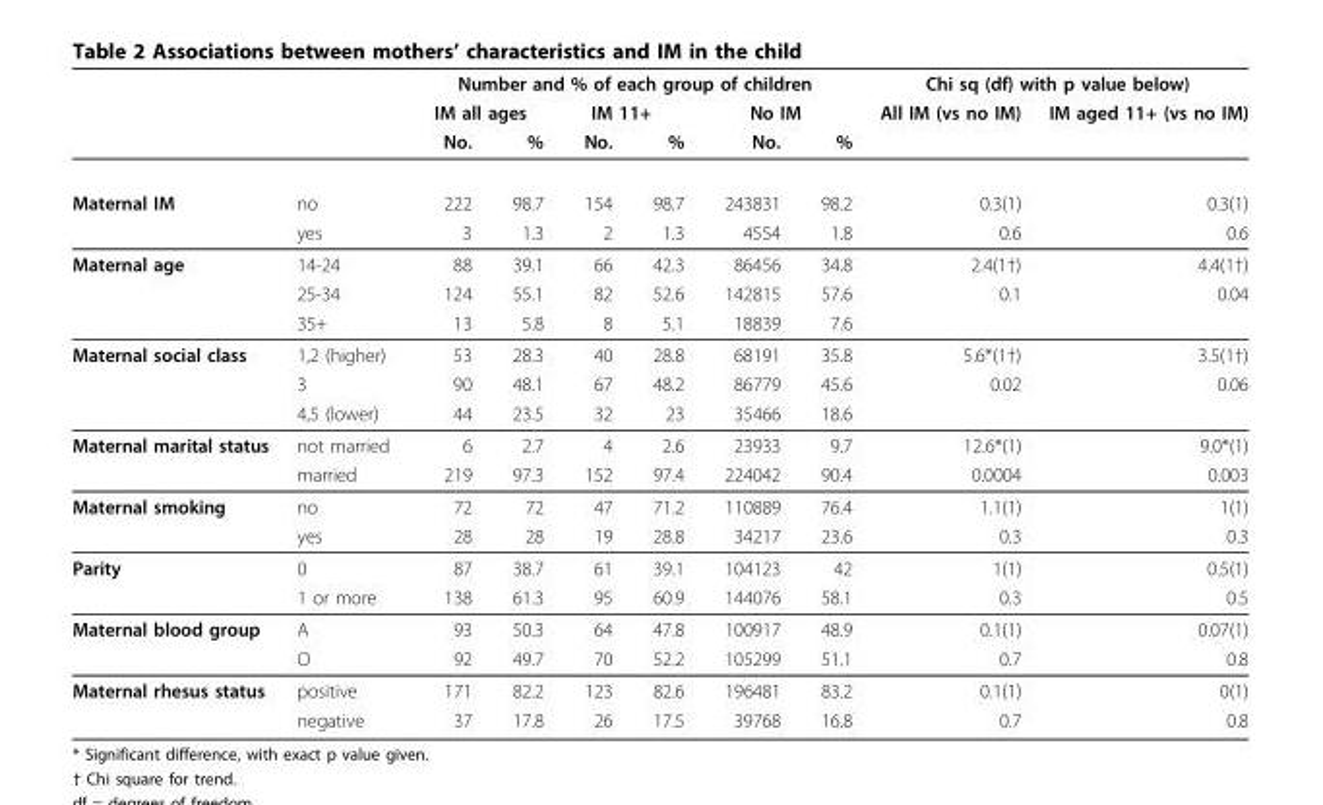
<table><thead><tr><td rowspan="3"></td><td rowspan="3"></td><td colspan="6">Number and % of each group of children</td><td colspan="2">Chi sq (df) with p value below)</td></tr><tr><td colspan="2">IM all ages</td><td colspan="2">IM 11+</td><td colspan="2">No IM</td><td rowspan="2">All IM (vs no IM)</td><td rowspan="2">IM aged 11+ (vs no IM)</td></tr><tr><td>No.</td><td>%</td><td>No.</td><td>%</td><td>No.</td><td>%</td></tr></thead><tbody><tr><td rowspan="2">Maternal IM</td><td>no</td><td>222</td><td>98.7</td><td>154</td><td>98.7</td><td>243831</td><td>98.2</td><td>0.3(1)</td><td>0.3(1)</td></tr><tr><td>yes</td><td>3</td><td>1.3</td><td>2</td><td>1.3</td><td>4554</td><td>1.8</td><td>0.6</td><td>0.6</td></tr><tr><td rowspan="3">Maternal age</td><td>14-24</td><td>88</td><td>39.1</td><td>66</td><td>42.3</td><td>86456</td><td>34.8</td><td>2.4(1†)</td><td>4.4(1†)</td></tr><tr><td>25-34</td><td>124</td><td>55.1</td><td>82</td><td>52.6</td><td>142815</td><td>57.6</td><td>0.1</td><td>0.04</td></tr><tr><td>35+</td><td>13</td><td>5.8</td><td>8</td><td>5.1</td><td>18839</td><td>7.6</td><td></td><td></td></tr><tr><td rowspan="3">Maternal social class</td><td>1,2 (higher)</td><td>53</td><td>28.3</td><td>40</td><td>28.8</td><td>68191</td><td>35.8</td><td>5.6*(1†)</td><td>3.5(1†)</td></tr><tr><td>3</td><td>90</td><td>48.1</td><td>67</td><td>48.2</td><td>86779</td><td>45.6</td><td>0.02</td><td>0.06</td></tr><tr><td>4,5 (lower)</td><td>44</td><td>23.5</td><td>32</td><td>23</td><td>35466</td><td>18.6</td><td></td><td></td></tr><tr><td rowspan="2">Maternal marital status</td><td>not married</td><td>6</td><td>2.7</td><td>4</td><td>2.6</td><td>23933</td><td>9.7</td><td>12.6*(1)</td><td>9.0*(1)</td></tr><tr><td>married</td><td>219</td><td>97.3</td><td>152</td><td>97.4</td><td>224042</td><td>90.4</td><td>0.0004</td><td>0.003</td></tr><tr><td rowspan="2">Maternal smoking</td><td>no</td><td>72</td><td>72</td><td>47</td><td>71.2</td><td>110889</td><td>76.4</td><td>1.1(1)</td><td>1(1)</td></tr><tr><td>yes</td><td>28</td><td>28</td><td>19</td><td>28.8</td><td>34217</td><td>23.6</td><td>0.3</td><td>0.3</td></tr><tr><td rowspan="2">Parity</td><td>0</td><td>87</td><td>38.7</td><td>61</td><td>39.1</td><td>104123</td><td>42</td><td>1(1)</td><td>0.5(1)</td></tr><tr><td>1 or more</td><td>138</td><td>61.3</td><td>95</td><td>60.9</td><td>144076</td><td>58.1</td><td>0.3</td><td>0.5</td></tr><tr><td rowspan="2">Maternal blood group</td><td>A</td><td>93</td><td>50.3</td><td>64</td><td>47.8</td><td>100917</td><td>48.9</td><td>0.1(1)</td><td>0.07(1)</td></tr><tr><td>O</td><td>92</td><td>49.7</td><td>70</td><td>52.2</td><td>105299</td><td>51.1</td><td>0.7</td><td>0.8</td></tr><tr><td rowspan="2">Maternal rhesus status</td><td>positive</td><td>171</td><td>82.2</td><td>123</td><td>82.6</td><td>196481</td><td>83.2</td><td>0.1(1)</td><td>0(1)</td></tr><tr><td>negative</td><td>37</td><td>17.8</td><td>26</td><td>17.5</td><td>39768</td><td>16.8</td><td>0.7</td><td>0.8</td></tr></tbody></table>